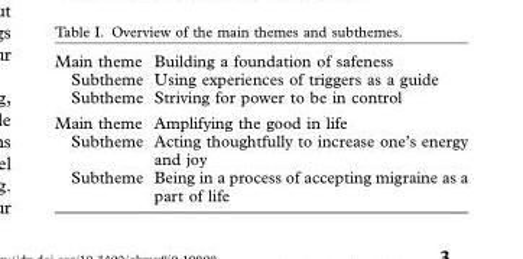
<table><tbody><tr><td>Main theme</td><td>Building a foundation of safeness</td></tr><tr><td>Subtheme</td><td>Using experiences of triggers as a guide</td></tr><tr><td>Subtheme</td><td>Striving for power to be in control</td></tr><tr><td>Main theme</td><td>Amplifying the good in life</td></tr><tr><td>Subtheme</td><td>Acting thoughtfully to increase one’s energy and joy</td></tr><tr><td>Subtheme</td><td>Being in a process of accepting migraine as a part of life</td></tr></tbody></table>